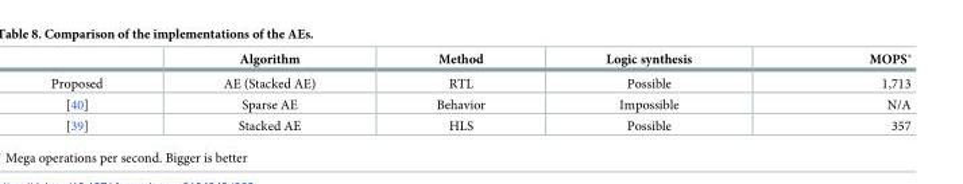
<table><thead><tr><td></td><td>Algorithm</td><td>Method</td><td>Logic synthesis</td><td>MOPS*</td></tr></thead><tbody><tr><td>Proposed</td><td>AE (Stacked AE)</td><td>RTL</td><td>Possible</td><td>1,713</td></tr><tr><td>[40]</td><td>Sparse AE</td><td>Behavior</td><td>Impossible</td><td>N/A</td></tr><tr><td>[39]</td><td>Stacked AE</td><td>HLS</td><td>Possible</td><td>357</td></tr></tbody></table>